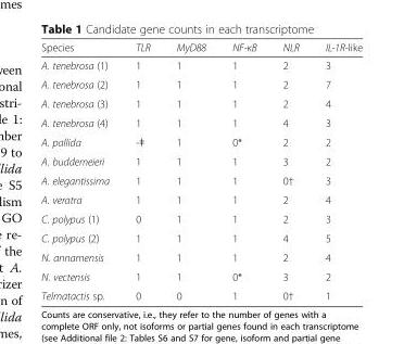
<table><thead><tr><td>Species</td><td>TLR</td><td>MyD88</td><td>NF-κB</td><td>NLR</td><td>IL-1R-like</td></tr></thead><tbody><tr><td>A. tenebrosa (1)</td><td>1</td><td>1</td><td>1</td><td>2</td><td>3</td></tr><tr><td>A. tenebrosa (2)</td><td>1</td><td>1</td><td>1</td><td>2</td><td>7</td></tr><tr><td>A. tenebrosa (3)</td><td>1</td><td>1</td><td>1</td><td>2</td><td>4</td></tr><tr><td>A. tenebrosa (4)</td><td>1</td><td>1</td><td>1</td><td>4</td><td>3</td></tr><tr><td>A. pallida</td><td>-ǂ</td><td>1</td><td>0*</td><td>2</td><td>2</td></tr><tr><td>A. buddemeieri</td><td>1</td><td>1</td><td>1</td><td>3</td><td>2</td></tr><tr><td>A. elegantissima</td><td>1</td><td>1</td><td>1</td><td>0†</td><td>3</td></tr><tr><td>A. veratra</td><td>1</td><td>1</td><td>1</td><td>2</td><td>4</td></tr><tr><td>C. polypus (1)</td><td>0</td><td>1</td><td>1</td><td>2</td><td>3</td></tr><tr><td>C. polypus (2)</td><td>1</td><td>1</td><td>1</td><td>4</td><td>5</td></tr><tr><td>N. annamensis</td><td>1</td><td>1</td><td>1</td><td>2</td><td>4</td></tr><tr><td>N. vectensis</td><td>1</td><td>1</td><td>0*</td><td>3</td><td>2</td></tr><tr><td>Telmatactis sp.</td><td>0</td><td>0</td><td>1</td><td>0†</td><td>1</td></tr></tbody></table>